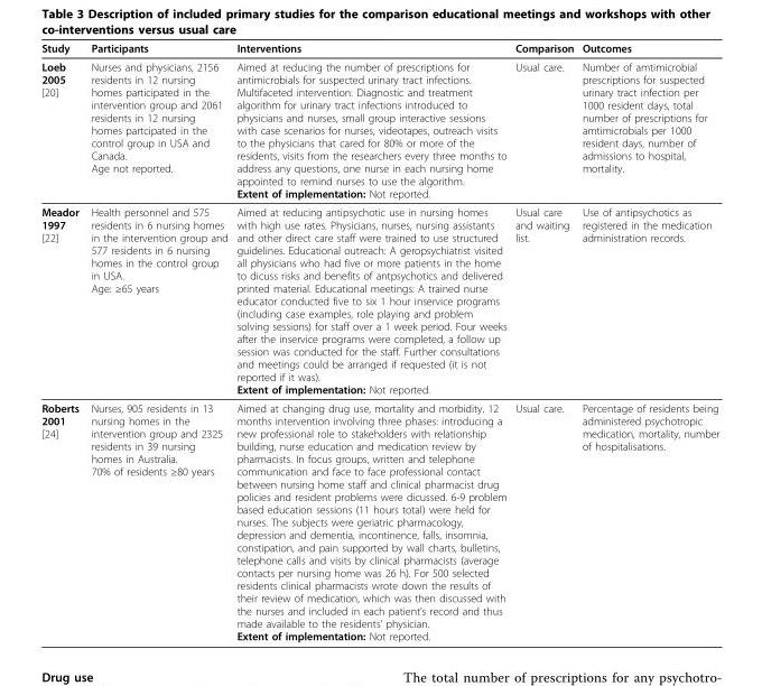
<table><thead><tr><td>Study</td><td>Participants</td><td>Interventions</td><td>Comparison</td><td>Outcomes</td></tr></thead><tbody><tr><td>Loeb 2005 [20]</td><td>Nurses and physicians, 2156 residents in 12 nursing homes participated in the intervention group and 2061 residents in 12 nursing homes partcipated in the control group in USA and Canada. Age not reported.</td><td>Aimed at reducing the number of prescriptions for antimicrobials for suspected urinary tract infections. Multifaceted intervention: Diagnostic and treatment algorithm for urinary tract infections introduced to physicians and nurses, small group interactive sessions with case scenarios for nurses, videotapes, outreach visits to the physicians that cared for 80% or more of the residents, visits from the researchers every three months to address any questions, one nurse in each nursing home appointed to remind nurses to use the algorithm. Extent of implementation: Not reported.</td><td>Usual care.</td><td>Number of amtimicrobial prescriptions for suspected urinary tract infection per 1000 resident days, total number of prescriptions for amtimicrobials per 1000 resident days, number of admissions to hospital, mortality.</td></tr><tr><td>Meador 1997 [22]</td><td>Health personnel and 575 residents in 6 nursing homes in the intervention group and 577 residents in 6 nursing homes in the control group in USA. Age: ≥65 years</td><td>Aimed at reducing antipsychotic use in nursing homes with high use rates. Physicians, nurses, nursing assistants and other direct care staff were trained to use structured guidelines. Educational outreach: A geropsychiatrist visited all physicians who had five or more patients in the home to dicuss risks and benefits of antpsychotics and delivered printed material. Educational meetings: A trained nurse educator conducted five to six 1 hour inservice programs (including case examples, role playing and problem solving sessions) for staff over a 1 week period. Four weeks after the inservice programs were completed, a follow up session was conducted for the staff. Further consultations and meetings could be arranged if requested (it is not reported if it was). Extent of implementation: Not reported.</td><td>Usual care and waiting list.</td><td>Use of antipsychotics as registered in the medication administration records.</td></tr><tr><td>Roberts 2001 [24]</td><td>Nurses, 905 residents in 13 nursing homes in the intervention group and 2325 residents in 39 nursing homes in Australia. 70% of residents ≥80 years</td><td>Aimed at changing drug use, mortality and morbidity. 12 months intervention involving three phases: introducing a new professional role to stakeholders with relationship building, nurse education and medication review by pharmacists. In focus groups, written and telephone communication and face to face professional contact between nursing home staff and clinical pharmacist drug policies and resident problems were dicussed. 6-9 problem based education sessions (11 hours total) were held for nurses. The subjects were geriatric pharmacology, depression and dementia, incontinence, falls, insomnia, constipation, and pain supported by wall charts, bulletins, telephone calls and visits by clinical pharmacists (average contacts per nursing home was 26 h). For 500 selected residents clinical pharmacists wrote down the results of their review of medication, which was then discussed with the nurses and included in each patient’s record and thus made available to the residents’ physician. Extent of implementation: Not reported.</td><td>Usual care.</td><td>Percentage of residents being administered psychotropic medication, mortality, number of hospitalisations.</td></tr></tbody></table>